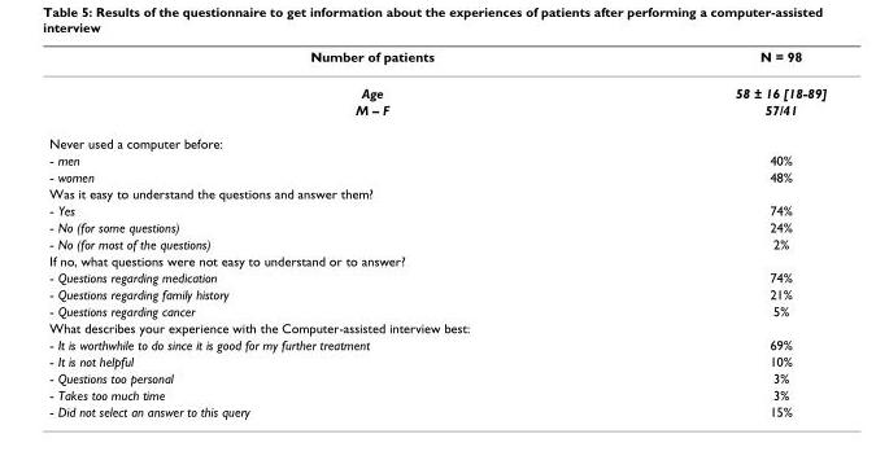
<table><thead><tr><td>Number of patients</td><td>N = 98</td></tr></thead><tbody><tr><td>Age</td><td>58 ± 16 [18-89]</td></tr><tr><td>M – F</td><td>57/41</td></tr><tr><td colspan="2">Never used a computer before:</td></tr><tr><td>- men</td><td>40%</td></tr><tr><td>- women</td><td>48%</td></tr><tr><td colspan="2">Was it easy to understand the questions and answer them?</td></tr><tr><td>- Yes</td><td>74%</td></tr><tr><td>- No (for some questions)</td><td>24%</td></tr><tr><td>- No (for most of the questions)</td><td>2%</td></tr><tr><td colspan="2">If no, what questions were not easy to understand or to answer?</td></tr><tr><td>- Questions regarding medication</td><td>74%</td></tr><tr><td>- Questions regarding family history</td><td>21%</td></tr><tr><td>- Questions regarding cancer</td><td>5%</td></tr><tr><td colspan="2">What describes your experience with the Computer-assisted interview best:</td></tr><tr><td>- It is worthwhile to do since it is good for my further treatment</td><td>69%</td></tr><tr><td>- It is not helpful</td><td>10%</td></tr><tr><td>- Questions too personal</td><td>3%</td></tr><tr><td>- Takes too much time</td><td>3%</td></tr><tr><td>- Did not select an answer to this query</td><td>15%</td></tr></tbody></table>